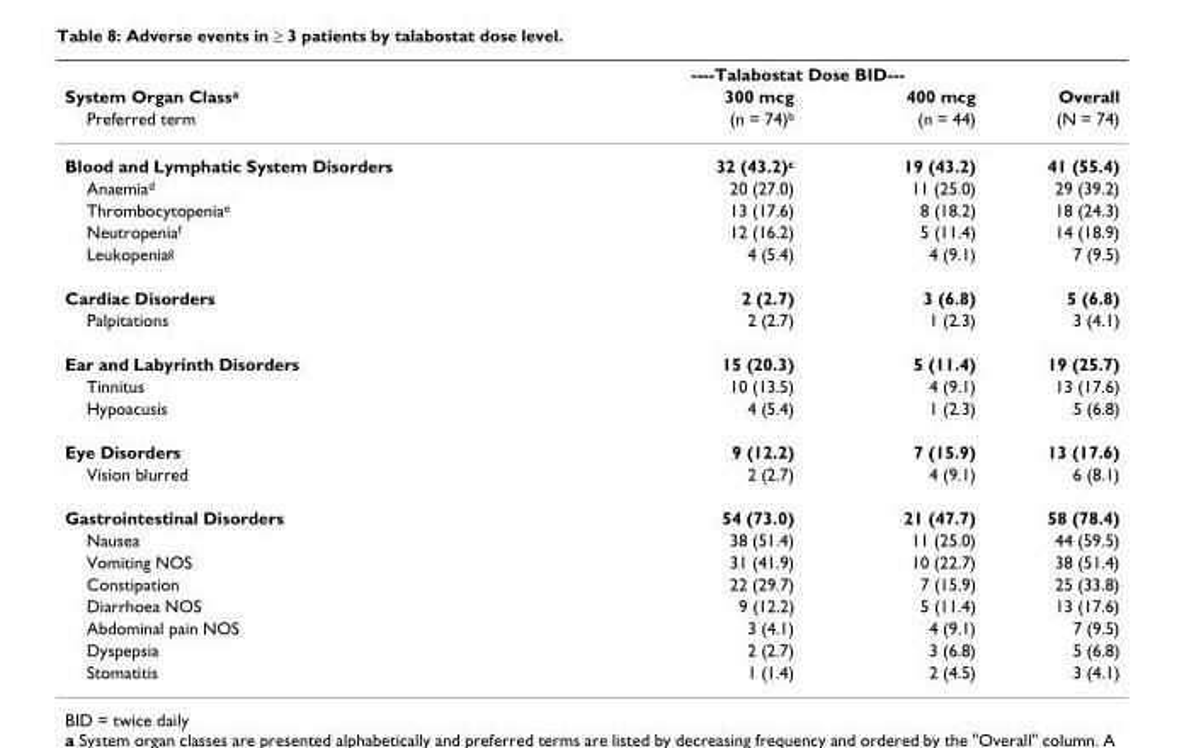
<table><thead><tr><td rowspan="3">System Organ Class<sup>a</sup> Preferred term</td><td colspan="2">----Talabostat Dose BID---</td><td rowspan="3">Overall (N = 74)</td></tr><tr><td rowspan="2">300 mcg (n = 74)<sup>b</sup></td><td rowspan="2">400 mcg (n = 44)</td></tr><tr></tr></thead><tbody><tr><td>Blood and Lymphatic System Disorders</td><td>32 (43.2)<sup>c</sup></td><td>19 (43.2)</td><td>41 (55.4)</td></tr><tr><td>Anaemia<sup>d</sup></td><td>20 (27.0)</td><td>11 (25.0)</td><td>29 (39.2)</td></tr><tr><td>Thrombocytopenia<sup>e</sup></td><td>13 (17.6)</td><td>8 (18.2)</td><td>18 (24.3)</td></tr><tr><td>Neutropenia<sup>f</sup></td><td>12 (16.2)</td><td>5 (11.4)</td><td>14 (18.9)</td></tr><tr><td>Leukopenia<sup>g</sup></td><td>4 (5.4)</td><td>4 (9.1)</td><td>7 (9.5)</td></tr><tr><td>Cardiac Disorders</td><td>2 (2.7)</td><td>3 (6.8)</td><td>5 (6.8)</td></tr><tr><td>Palpitations</td><td>2 (2.7)</td><td>1 (2.3)</td><td>3 (4.1)</td></tr><tr><td>Ear and Labyrinth Disorders</td><td>15 (20.3)</td><td>5 (11.4)</td><td>19 (25.7)</td></tr><tr><td>Tinnitus</td><td>10 (13.5)</td><td>4 (9.1)</td><td>13 (17.6)</td></tr><tr><td>Hypoacusis</td><td>4 (5.4)</td><td>1 (2.3)</td><td>5 (6.8)</td></tr><tr><td>Eye Disorders</td><td>9 (12.2)</td><td>7 (15.9)</td><td>13 (17.6)</td></tr><tr><td>Vision blurred</td><td>2 (2.7)</td><td>4 (9.1)</td><td>6 (8.1)</td></tr><tr><td>Gastrointestinal Disorders</td><td>54 (73.0)</td><td>21 (47.7)</td><td>58 (78.4)</td></tr><tr><td>Nausea</td><td>38 (51.4)</td><td>11 (25.0)</td><td>44 (59.5)</td></tr><tr><td>Vomiting NOS</td><td>31 (41.9)</td><td>10 (22.7)</td><td>38 (51.4)</td></tr><tr><td>Constipation</td><td>22 (29.7)</td><td>7 (15.9)</td><td>25 (33.8)</td></tr><tr><td>Diarrhoea NOS</td><td>9 (12.2)</td><td>5 (11.4)</td><td>13 (17.6)</td></tr><tr><td>Abdominal pain NOS</td><td>3 (4.1)</td><td>4 (9.1)</td><td>7 (9.5)</td></tr><tr><td>Dyspepsia</td><td>2 (2.7)</td><td>3 (6.8)</td><td>5 (6.8)</td></tr><tr><td>Stomatitis</td><td>1 (1.4)</td><td>2 (4.5)</td><td>3 (4.1)</td></tr></tbody></table>